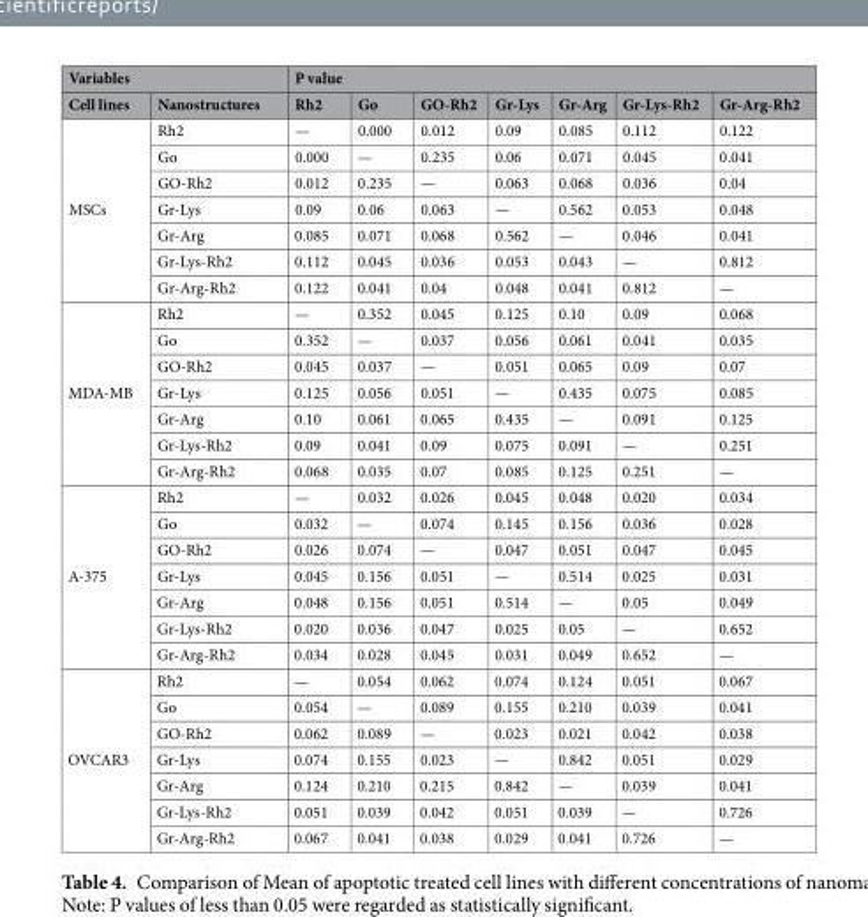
<table><thead><tr><td colspan="2">Variables</td><td colspan="7">P value</td></tr><tr><td>Cell lines</td><td>Nanostructures</td><td>Rh2</td><td>Go</td><td>GO-Rh2</td><td>Gr-Lys</td><td>Gr-Arg</td><td>Gr-Lys-Rh2</td><td>Gr-Arg-Rh2</td></tr></thead><tbody><tr><td rowspan="7">MSCs</td><td>Rh2</td><td>—</td><td>0.000</td><td>0.012</td><td>0.09</td><td>0.085</td><td>0.112</td><td>0.122</td></tr><tr><td>Go</td><td>0.000</td><td>—</td><td>0.235</td><td>0.06</td><td>0.071</td><td>0.045</td><td>0.041</td></tr><tr><td>GO-Rh2</td><td>0.012</td><td>0.235</td><td>—</td><td>0.063</td><td>0.068</td><td>0.036</td><td>0.04</td></tr><tr><td>Gr-Lys</td><td>0.09</td><td>0.06</td><td>0.063</td><td>—</td><td>0.562</td><td>0.053</td><td>0.048</td></tr><tr><td>Gr-Arg</td><td>0.085</td><td>0.071</td><td>0.068</td><td>0.562</td><td>—</td><td>0.046</td><td>0.041</td></tr><tr><td>Gr-Lys-Rh2</td><td>0.112</td><td>0.045</td><td>0.036</td><td>0.053</td><td>0.043</td><td>—</td><td>0.812</td></tr><tr><td>Gr-Arg-Rh2</td><td>0.122</td><td>0.041</td><td>0.04</td><td>0.048</td><td>0.041</td><td>0.812</td><td>—</td></tr><tr><td rowspan="7">MDA-MB</td><td>Rh2</td><td>—</td><td>0.352</td><td>0.045</td><td>0.125</td><td>0.10</td><td>0.09</td><td>0.068</td></tr><tr><td>Go</td><td>0.352</td><td>—</td><td>0.037</td><td>0.056</td><td>0.061</td><td>0.041</td><td>0.035</td></tr><tr><td>GO-Rh2</td><td>0.045</td><td>0.037</td><td>—</td><td>0.051</td><td>0.065</td><td>0.09</td><td>0.07</td></tr><tr><td>Gr-Lys</td><td>0.125</td><td>0.056</td><td>0.051</td><td>—</td><td>0.435</td><td>0.075</td><td>0.085</td></tr><tr><td>Gr-Arg</td><td>0.10</td><td>0.061</td><td>0.065</td><td>0.435</td><td>—</td><td>0.091</td><td>0.125</td></tr><tr><td>Gr-Lys-Rh2</td><td>0.09</td><td>0.041</td><td>0.09</td><td>0.075</td><td>0.091</td><td>—</td><td>0.251</td></tr><tr><td>Gr-Arg-Rh2</td><td>0.068</td><td>0.035</td><td>0.07</td><td>0.085</td><td>0.125</td><td>0.251</td><td>—</td></tr><tr><td rowspan="7">A-375</td><td>Rh2</td><td>—</td><td>0.032</td><td>0.026</td><td>0.045</td><td>0.048</td><td>0.020</td><td>0.034</td></tr><tr><td>Go</td><td>0.032</td><td>—</td><td>0.074</td><td>0.145</td><td>0.156</td><td>0.036</td><td>0.028</td></tr><tr><td>GO-Rh2</td><td>0.026</td><td>0.074</td><td>—</td><td>0.047</td><td>0.051</td><td>0.047</td><td>0.045</td></tr><tr><td>Gr-Lys</td><td>0.045</td><td>0.156</td><td>0.051</td><td>—</td><td>0.514</td><td>0.025</td><td>0.031</td></tr><tr><td>Gr-Arg</td><td>0.048</td><td>0.156</td><td>0.051</td><td>0.514</td><td>—</td><td>0.05</td><td>0.049</td></tr><tr><td>Gr-Lys-Rh2</td><td>0.020</td><td>0.036</td><td>0.047</td><td>0.025</td><td>0.05</td><td>—</td><td>0.652</td></tr><tr><td>Gr-Arg-Rh2</td><td>0.034</td><td>0.028</td><td>0.045</td><td>0.031</td><td>0.049</td><td>0.652</td><td>—</td></tr><tr><td rowspan="7">OVCAR3</td><td>Rh2</td><td>—</td><td>0.054</td><td>0.062</td><td>0.074</td><td>0.124</td><td>0.051</td><td>0.067</td></tr><tr><td>Go</td><td>0.054</td><td>—</td><td>0.089</td><td>0.155</td><td>0.210</td><td>0.039</td><td>0.041</td></tr><tr><td>GO-Rh2</td><td>0.062</td><td>0.089</td><td>—</td><td>0.023</td><td>0.021</td><td>0.042</td><td>0.038</td></tr><tr><td>Gr-Lys</td><td>0.074</td><td>0.155</td><td>0.023</td><td>—</td><td>0.842</td><td>0.051</td><td>0.029</td></tr><tr><td>Gr-Arg</td><td>0.124</td><td>0.210</td><td>0.215</td><td>0.842</td><td>—</td><td>0.039</td><td>0.041</td></tr><tr><td>Gr-Lys-Rh2</td><td>0.051</td><td>0.039</td><td>0.042</td><td>0.051</td><td>0.039</td><td>—</td><td>0.726</td></tr><tr><td>Gr-Arg-Rh2</td><td>0.067</td><td>0.041</td><td>0.038</td><td>0.029</td><td>0.041</td><td>0.726</td><td>—</td></tr></tbody></table>